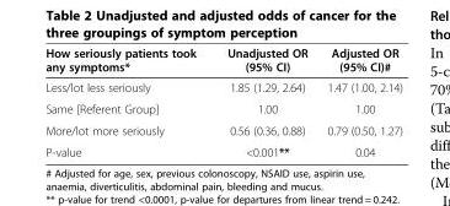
<table><thead><tr><td>How seriously patients took any symptoms*</td><td>Unadjusted OR (95% CI)</td><td>Adjusted OR (95% CI)#</td></tr></thead><tbody><tr><td>Less/lot less seriously</td><td>1.85 (1.29, 2.64)</td><td>1.47 (1.00, 2.14)</td></tr><tr><td>Same [Referent Group]</td><td>1.00</td><td>1.00</td></tr><tr><td>More/lot more seriously</td><td>0.56 (0.36, 0.88)</td><td>0.79 (0.50, 1.27)</td></tr><tr><td>P-value</td><td>&lt;0.001**</td><td>0.04</td></tr></tbody></table>